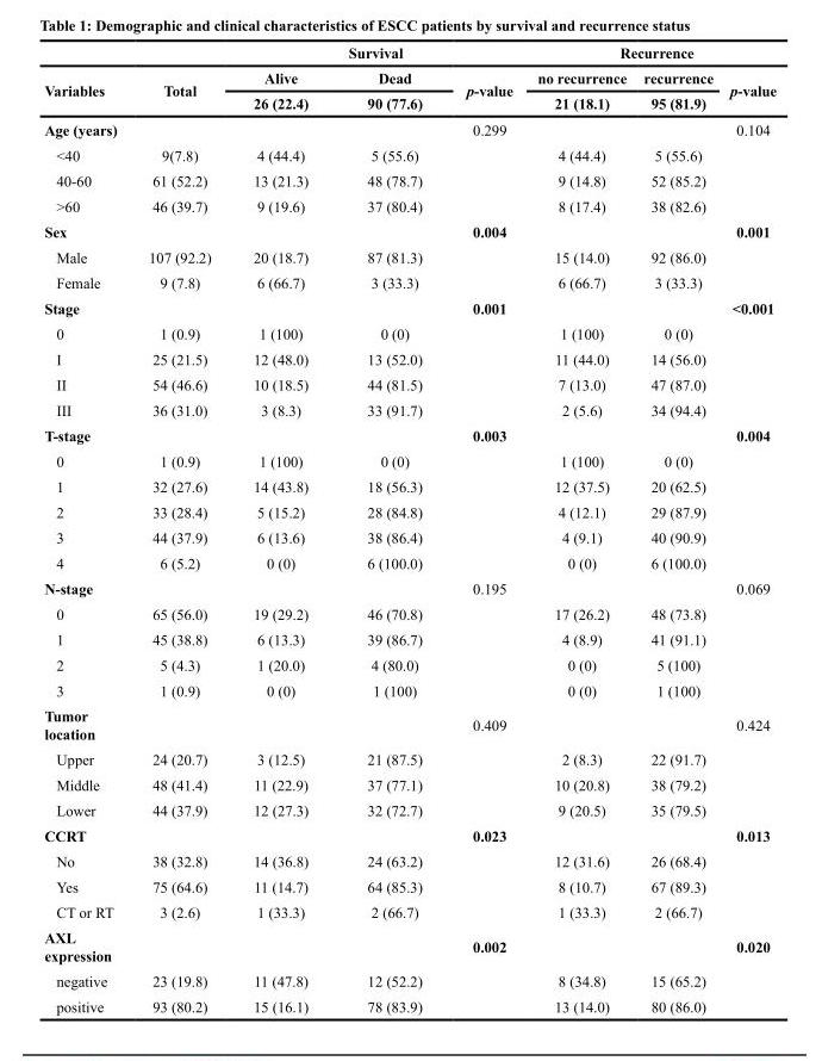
<table><thead><tr><td rowspan="3">Variables</td><td rowspan="3">Total</td><td colspan="3">Survival</td><td colspan="3">Recurrence</td></tr><tr><td rowspan="2">Alive 26 (22.4)</td><td rowspan="2">Dead 90 (77.6)</td><td rowspan="2">p-value</td><td rowspan="2">no recurrence 21 (18.1)</td><td rowspan="2">recurrence 95 (81.9)</td><td rowspan="2">p-value</td></tr><tr></tr></thead><tbody><tr><td colspan="4">Age (years)</td><td>0.299</td><td></td><td></td><td>0.104</td></tr><tr><td>&lt;40</td><td>9(7.8)</td><td>4 (44.4)</td><td>5 (55.6)</td><td></td><td>4 (44.4)</td><td>5 (55.6)</td><td></td></tr><tr><td>40-60</td><td>61 (52.2)</td><td>13 (21.3)</td><td>48 (78.7)</td><td></td><td>9 (14.8)</td><td>52 (85.2)</td><td></td></tr><tr><td>&gt;60</td><td>46 (39.7)</td><td>9 (19.6)</td><td>37 (80.4)</td><td></td><td>8 (17.4)</td><td>38 (82.6)</td><td></td></tr><tr><td>Sex</td><td></td><td></td><td></td><td>0.004</td><td></td><td></td><td>0.001</td></tr><tr><td>Male</td><td>107 (92.2)</td><td>20 (18.7)</td><td>87 (81.3)</td><td></td><td>15 (14.0)</td><td>92 (86.0)</td><td></td></tr><tr><td>Female</td><td>9 (7.8)</td><td>6 (66.7)</td><td>3 (33.3)</td><td></td><td>6 (66.7)</td><td>3 (33.3)</td><td></td></tr><tr><td>Stage</td><td></td><td></td><td></td><td>0.001</td><td></td><td></td><td>&lt;0.001</td></tr><tr><td>0</td><td>1 (0.9)</td><td>1 (100)</td><td>0 (0)</td><td></td><td>1 (100)</td><td>0 (0)</td><td></td></tr><tr><td>I</td><td>25 (21.5)</td><td>12 (48.0)</td><td>13 (52.0)</td><td></td><td>11 (44.0)</td><td>14 (56.0)</td><td></td></tr><tr><td>II</td><td>54 (46.6)</td><td>10 (18.5)</td><td>44 (81.5)</td><td></td><td>7 (13.0)</td><td>47 (87.0)</td><td></td></tr><tr><td>III</td><td>36 (31.0)</td><td>3 (8.3)</td><td>33 (91.7)</td><td></td><td>2 (5.6)</td><td>34 (94.4)</td><td></td></tr><tr><td>T-stage</td><td></td><td></td><td></td><td>0.003</td><td></td><td></td><td>0.004</td></tr><tr><td>0</td><td>1 (0.9)</td><td>1 (100)</td><td>0 (0)</td><td></td><td>1 (100)</td><td>0 (0)</td><td></td></tr><tr><td>1</td><td>32 (27.6)</td><td>14 (43.8)</td><td>18 (56.3)</td><td></td><td>12 (37.5)</td><td>20 (62.5)</td><td></td></tr><tr><td>2</td><td>33 (28.4)</td><td>5 (15.2)</td><td>28 (84.8)</td><td></td><td>4 (12.1)</td><td>29 (87.9)</td><td></td></tr><tr><td>3</td><td>44 (37.9)</td><td>6 (13.6)</td><td>38 (86.4)</td><td></td><td>4 (9.1)</td><td>40 (90.9)</td><td></td></tr><tr><td>4</td><td>6 (5.2)</td><td>0 (0)</td><td>6 (100.0)</td><td></td><td>0 (0)</td><td>6 (100.0)</td><td></td></tr><tr><td>N-stage</td><td></td><td></td><td></td><td>0.195</td><td></td><td></td><td>0.069</td></tr><tr><td>0</td><td>65 (56.0)</td><td>19 (29.2)</td><td>46 (70.8)</td><td></td><td>17 (26.2)</td><td>48 (73.8)</td><td></td></tr><tr><td>1</td><td>45 (38.8)</td><td>6 (13.3)</td><td>39 (86.7)</td><td></td><td>4 (8.9)</td><td>41 (91.1)</td><td></td></tr><tr><td>2</td><td>5 (4.3)</td><td>1 (20.0)</td><td>4 (80.0)</td><td></td><td>0 (0)</td><td>5 (100)</td><td></td></tr><tr><td>3</td><td>1 (0.9)</td><td>0 (0)</td><td>1 (100)</td><td></td><td>0 (0)</td><td>1 (100)</td><td></td></tr><tr><td>Tumor location</td><td></td><td></td><td></td><td>0.409</td><td></td><td></td><td>0.424</td></tr><tr><td>Upper</td><td>24 (20.7)</td><td>3 (12.5)</td><td>21 (87.5)</td><td></td><td>2 (8.3)</td><td>22 (91.7)</td><td></td></tr><tr><td>Middle</td><td>48 (41.4)</td><td>11 (22.9)</td><td>37 (77.1)</td><td></td><td>10 (20.8)</td><td>38 (79.2)</td><td></td></tr><tr><td>Lower</td><td>44 (37.9)</td><td>12 (27.3)</td><td>32 (72.7)</td><td></td><td>9 (20.5)</td><td>35 (79.5)</td><td></td></tr><tr><td>CCRT</td><td></td><td></td><td></td><td>0.023</td><td></td><td></td><td>0.013</td></tr><tr><td>No</td><td>38 (32.8)</td><td>14 (36.8)</td><td>24 (63.2)</td><td></td><td>12 (31.6)</td><td>26 (68.4)</td><td></td></tr><tr><td>Yes</td><td>75 (64.6)</td><td>11 (14.7)</td><td>64 (85.3)</td><td></td><td>8 (10.7)</td><td>67 (89.3)</td><td></td></tr><tr><td>CT or RT</td><td>3 (2.6)</td><td>1 (33.3)</td><td>2 (66.7)</td><td></td><td>1 (33.3)</td><td>2 (66.7)</td><td></td></tr><tr><td>AXL expression</td><td></td><td></td><td></td><td>0.002</td><td></td><td></td><td>0.020</td></tr><tr><td>negative</td><td>23 (19.8)</td><td>11 (47.8)</td><td>12 (52.2)</td><td></td><td>8 (34.8)</td><td>15 (65.2)</td><td></td></tr><tr><td>positive</td><td>93 (80.2)</td><td>15 (16.1)</td><td>78 (83.9)</td><td></td><td>13 (14.0)</td><td>80 (86.0)</td><td></td></tr></tbody></table>